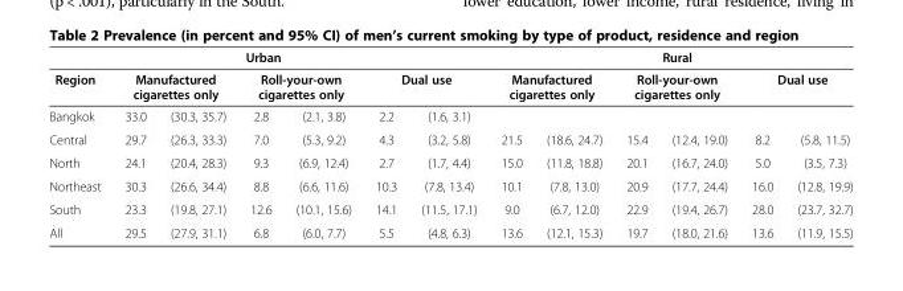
<table><thead><tr><td colspan="7">Urban</td><td colspan="6">Rural</td></tr><tr><td rowspan="2">Region Bangkok</td><td colspan="2">Manufactured cigarettes only</td><td colspan="2">Roll-your-own cigarettes only</td><td colspan="2">Dual use</td><td colspan="2">Manufactured cigarettes only</td><td colspan="2">Roll-your-own cigarettes only</td><td colspan="2">Dual use</td></tr><tr><td>33.0</td><td>(30.3, 35.7)</td><td>2.8</td><td>(2.1, 3.8)</td><td>2.2</td><td>(1.6, 3.1)</td><td></td><td></td><td></td><td></td><td></td><td></td></tr></thead><tbody><tr><td>Central</td><td>29.7</td><td>(26.3, 33.3)</td><td>7.0</td><td>(5.3, 9.2)</td><td>4.3</td><td>(3.2, 5.8)</td><td>21.5</td><td>(18.6, 24.7)</td><td>15.4</td><td>(12.4, 19.0)</td><td>8.2</td><td>(5.8, 11.5)</td></tr><tr><td>North</td><td>24.1</td><td>(20.4, 28.3)</td><td>9.3</td><td>(6.9, 12.4)</td><td>2.7</td><td>(1.7, 4.4)</td><td>15.0</td><td>(11.8, 18.8)</td><td>20.1</td><td>(16.7, 24.0)</td><td>5.0</td><td>(3.5, 7.3)</td></tr><tr><td>Northeast</td><td>30.3</td><td>(26.6, 34.4)</td><td>8.8</td><td>(6.6, 11.6)</td><td>10.3</td><td>(7.8, 13.4)</td><td>10.1</td><td>(7.8, 13.0)</td><td>20.9</td><td>(17.7, 24.4)</td><td>16.0</td><td>(12.8, 19.9)</td></tr><tr><td>South</td><td>23.3</td><td>(19.8, 27.1)</td><td>12.6</td><td>(10.1, 15.6)</td><td>14.1</td><td>(11.5, 17.1)</td><td>9.0</td><td>(6.7, 12.0)</td><td>22.9</td><td>(19.4, 26.7)</td><td>28.0</td><td>(23.7, 32.7)</td></tr><tr><td>All</td><td>29.5</td><td>(27.9, 31.1)</td><td>6.8</td><td>(6.0, 7.7)</td><td>5.5</td><td>(4.8, 6.3)</td><td>13.6</td><td>(12.1, 15.3)</td><td>19.7</td><td>(18.0, 21.6)</td><td>13.6</td><td>(11.9, 15.5)</td></tr></tbody></table>